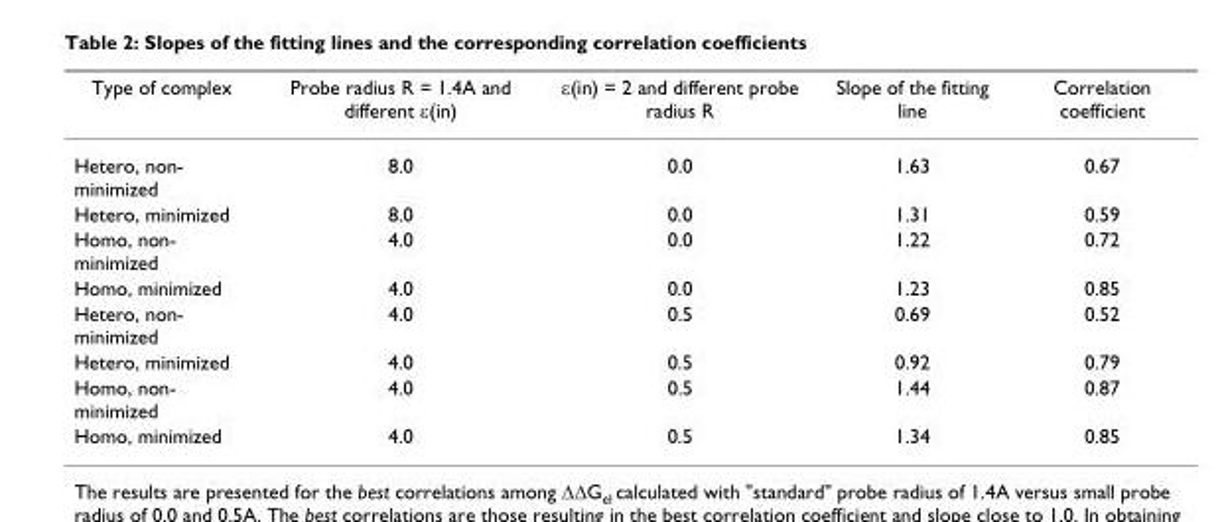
<table><thead><tr><td>Type of complex</td><td>Probe radius R = 1.4A and different ε(in)</td><td>ε(in) = 2 and different probe radius R</td><td>Slope of the fitting line</td><td>Correlation coefficient</td></tr></thead><tbody><tr><td>Hetero, non- minimized</td><td>8.0</td><td>0.0</td><td>1.63</td><td>0.67</td></tr><tr><td>Hetero, minimized</td><td>8.0</td><td>0.0</td><td>1.31</td><td>0.59</td></tr><tr><td>Homo, non- minimized</td><td>4.0</td><td>0.0</td><td>1.22</td><td>0.72</td></tr><tr><td>Homo, minimized</td><td>4.0</td><td>0.0</td><td>1.23</td><td>0.85</td></tr><tr><td>Hetero, non- minimized</td><td>4.0</td><td>0.5</td><td>0.69</td><td>0.52</td></tr><tr><td>Hetero, minimized</td><td>4.0</td><td>0.5</td><td>0.92</td><td>0.79</td></tr><tr><td>Homo, non- minimized</td><td>4.0</td><td>0.5</td><td>1.44</td><td>0.87</td></tr><tr><td>Homo, minimized</td><td>4.0</td><td>0.5</td><td>1.34</td><td>0.85</td></tr></tbody></table>